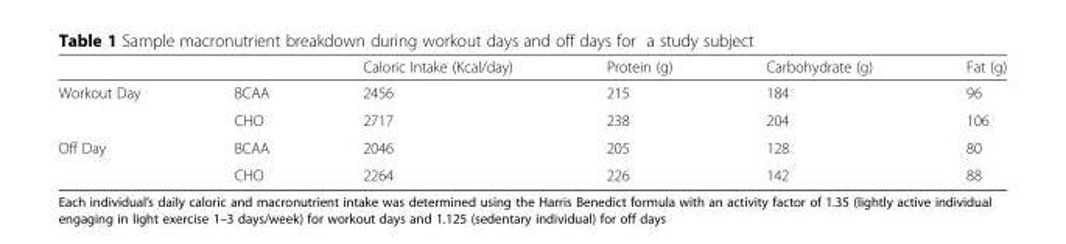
<table><thead><tr><td></td><td></td><td>Caloric Intake (Kcal/day)</td><td>Protein (g)</td><td>Carbohydrate (g)</td><td>Fat (g)</td></tr></thead><tbody><tr><td rowspan="2">Workout Day</td><td>BCAA</td><td>2456</td><td>215</td><td>184</td><td>96</td></tr><tr><td>CHO</td><td>2717</td><td>238</td><td>204</td><td>106</td></tr><tr><td rowspan="2">Off Day</td><td>BCAA</td><td>2046</td><td>205</td><td>128</td><td>80</td></tr><tr><td>CHO</td><td>2264</td><td>226</td><td>142</td><td>88</td></tr></tbody></table>